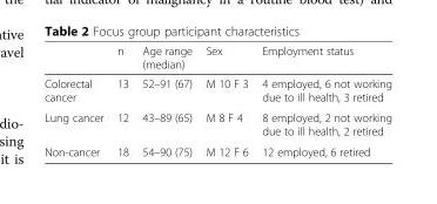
<table><thead><tr><td></td><td>n</td><td>Age range (median)</td><td>Sex</td><td>Employment status</td></tr></thead><tbody><tr><td>Colorectal cancer</td><td>13</td><td>52–91 (67)</td><td>M 10 F 3</td><td>4 employed, 6 not working due to ill health, 3 retired</td></tr><tr><td>Lung cancer</td><td>12</td><td>43–89 (65)</td><td>M 8 F 4</td><td>8 employed, 2 not working due to ill health, 2 retired</td></tr><tr><td>Non-cancer</td><td>18</td><td>54–90 (75)</td><td>M 12 F 6</td><td>12 employed, 6 retired</td></tr></tbody></table>